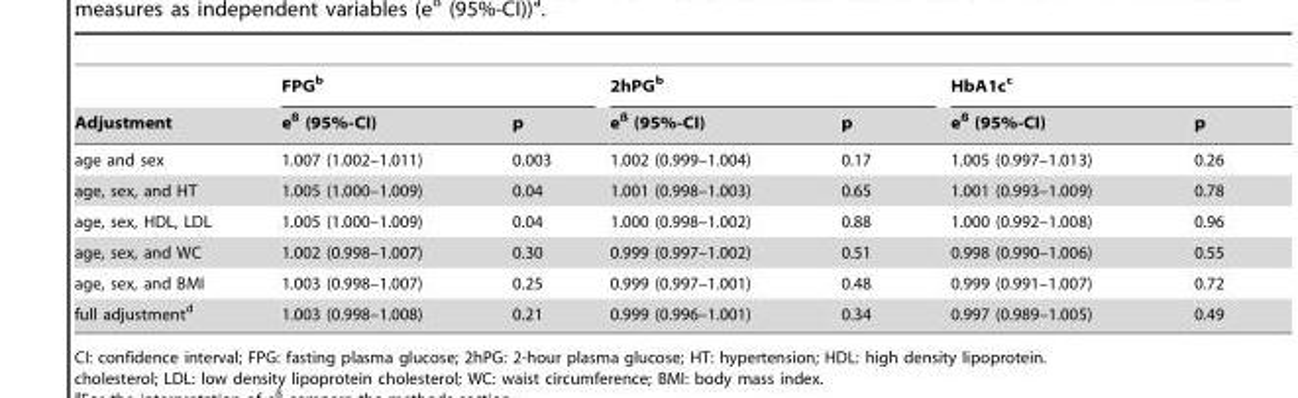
<table><thead><tr><td rowspan="2">Adjustment</td><td colspan="2">FPG<sup>b</sup></td><td colspan="2">2hPG<sup>b</sup></td><td colspan="2">HbA1c<sup>c</sup></td></tr><tr><td>e<sup>ß</sup> (95%-CI)</td><td>p</td><td>e<sup>ß</sup> (95%-CI)</td><td>p</td><td>e<sup>ß</sup> (95%-CI)</td><td>p</td></tr></thead><tbody><tr><td>age and sex</td><td>1.007 (1.002–1.011)</td><td>0.003</td><td>1.002 (0.999–1.004)</td><td>0.17</td><td>1.005 (0.997–1.013)</td><td>0.26</td></tr><tr><td>age, sex, and HT</td><td>1.005 (1.000–1.009)</td><td>0.04</td><td>1.001 (0.998–1.003)</td><td>0.65</td><td>1.001 (0.993–1.009)</td><td>0.78</td></tr><tr><td>age, sex, HDL, LDL</td><td>1.005 (1.000–1.009)</td><td>0.04</td><td>1.000 (0.998–1.002)</td><td>0.88</td><td>1.000 (0.992–1.008)</td><td>0.96</td></tr><tr><td>age, sex, and WC</td><td>1.002 (0.998–1.007)</td><td>0.30</td><td>0.999 (0.997–1.002)</td><td>0.51</td><td>0.998 (0.990–1.006)</td><td>0.55</td></tr><tr><td>age, sex, and BMI</td><td>1.003 (0.998–1.007)</td><td>0.25</td><td>0.999 (0.997–1.001)</td><td>0.48</td><td>0.999 (0.991–1.007)</td><td>0.72</td></tr><tr><td>full adjustment<sup>d</sup></td><td>1.003 (0.998–1.008)</td><td>0.21</td><td>0.999 (0.996–1.001)</td><td>0.34</td><td>0.997 (0.989–1.005)</td><td>0.49</td></tr></tbody></table>